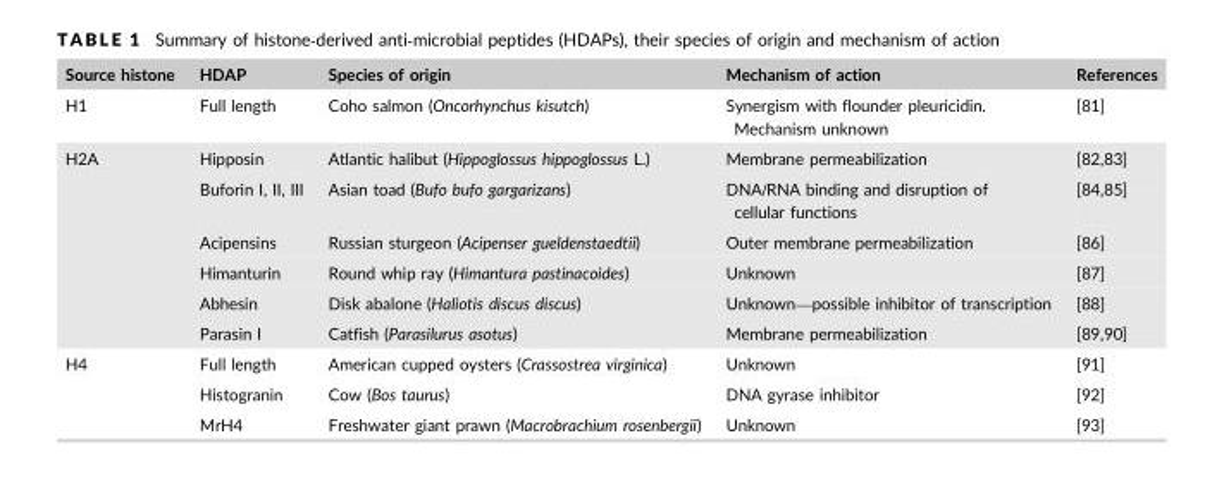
<table><thead><tr><td>Source histone</td><td>HDAP</td><td>Species of origin</td><td>Mechanism of action</td><td>References</td></tr></thead><tbody><tr><td>H1</td><td>Full length</td><td>Coho salmon (Oncorhynchus kisutch)</td><td>Synergism with flounder pleuricidin. Mechanism unknown</td><td>[81]</td></tr><tr><td rowspan="6">H2A</td><td>Hipposin</td><td>Atlantic halibut (Hippoglossus hippoglossus L.)</td><td>Membrane permeabilization</td><td>[82,83]</td></tr><tr><td>Buforin I, II, III</td><td>Asian toad (Bufo bufo gargarizans)</td><td>DNA/RNA binding and disruption of cellular functions</td><td>[84,85]</td></tr><tr><td>Acipensins</td><td>Russian sturgeon (Acipenser gueldenstaedtii)</td><td>Outer membrane permeabilization</td><td>[86]</td></tr><tr><td>Himanturin</td><td>Round whip ray (Himantura pastinacoides)</td><td>Unknown</td><td>[87]</td></tr><tr><td>Abhesin</td><td>Disk abalone (Haliotis discus discus)</td><td>Unknown—possible inhibitor of transcription</td><td>[88]</td></tr><tr><td>Parasin I</td><td>Catfish (Parasilurus asotus)</td><td>Membrane permeabilization</td><td>[89,90]</td></tr><tr><td rowspan="3">H4</td><td>Full length</td><td>American cupped oysters (Crassostrea virginica)</td><td>Unknown</td><td>[91]</td></tr><tr><td>Histogranin</td><td>Cow (Bos taurus)</td><td>DNA gyrase inhibitor</td><td>[92]</td></tr><tr><td>MrH4</td><td>Freshwater giant prawn (Macrobrachium rosenbergii)</td><td>Unknown</td><td>[93]</td></tr></tbody></table>